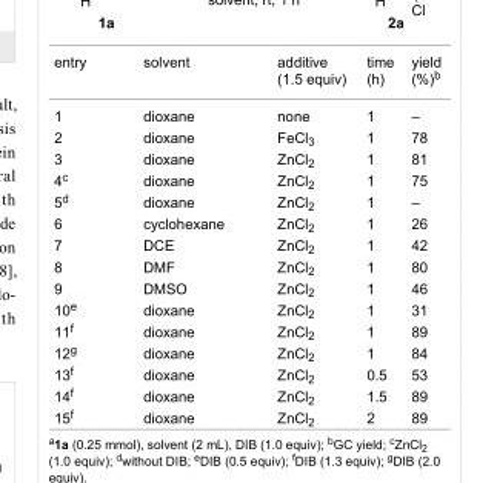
<table><tbody><tr><td>entry</td><td>solvent</td><td>additive (1.5 equiv)</td><td>time (h)</td><td>yield (%)<sup>b</sup></td></tr><tr><td>1</td><td>dioxane</td><td>none</td><td>1</td><td>–</td></tr><tr><td>2</td><td>dioxane</td><td>FeCl<sub>3</sub></td><td>1</td><td>78</td></tr><tr><td>3</td><td>dioxane</td><td>ZnCl<sub>2</sub></td><td>1</td><td>81</td></tr><tr><td>4<sup>c</sup></td><td>dioxane</td><td>ZnCl<sub>2</sub></td><td>1</td><td>75</td></tr><tr><td>5<sup>d</sup></td><td>dioxane</td><td>ZnCl<sub>2</sub></td><td>1</td><td>–</td></tr><tr><td>6</td><td>cyclohexane</td><td>ZnCl<sub>2</sub></td><td>1</td><td>26</td></tr><tr><td>7</td><td>DCE</td><td>ZnCl<sub>2</sub></td><td>1</td><td>42</td></tr><tr><td>8</td><td>DMF</td><td>ZnCl<sub>2</sub></td><td>1</td><td>80</td></tr><tr><td>9</td><td>DMSO</td><td>ZnCl<sub>2</sub></td><td>1</td><td>46</td></tr><tr><td>10<sup>e</sup></td><td>dioxane</td><td>ZnCl<sub>2</sub></td><td>1</td><td>31</td></tr><tr><td>11<sup>f</sup></td><td>dioxane</td><td>ZnCl<sub>2</sub></td><td>1</td><td>89</td></tr><tr><td>12<sup>g</sup></td><td>dioxane</td><td>ZnCl<sub>2</sub></td><td>1</td><td>84</td></tr><tr><td>13<sup>f</sup></td><td>dioxane</td><td>ZnCl<sub>2</sub></td><td>0.5</td><td>53</td></tr><tr><td>14<sup>f</sup></td><td>dioxane</td><td>ZnCl<sub>2</sub></td><td>1.5</td><td>89</td></tr><tr><td>15<sup>f</sup></td><td>dioxane</td><td>ZnCl<sub>2</sub></td><td>2</td><td>89</td></tr></tbody></table>